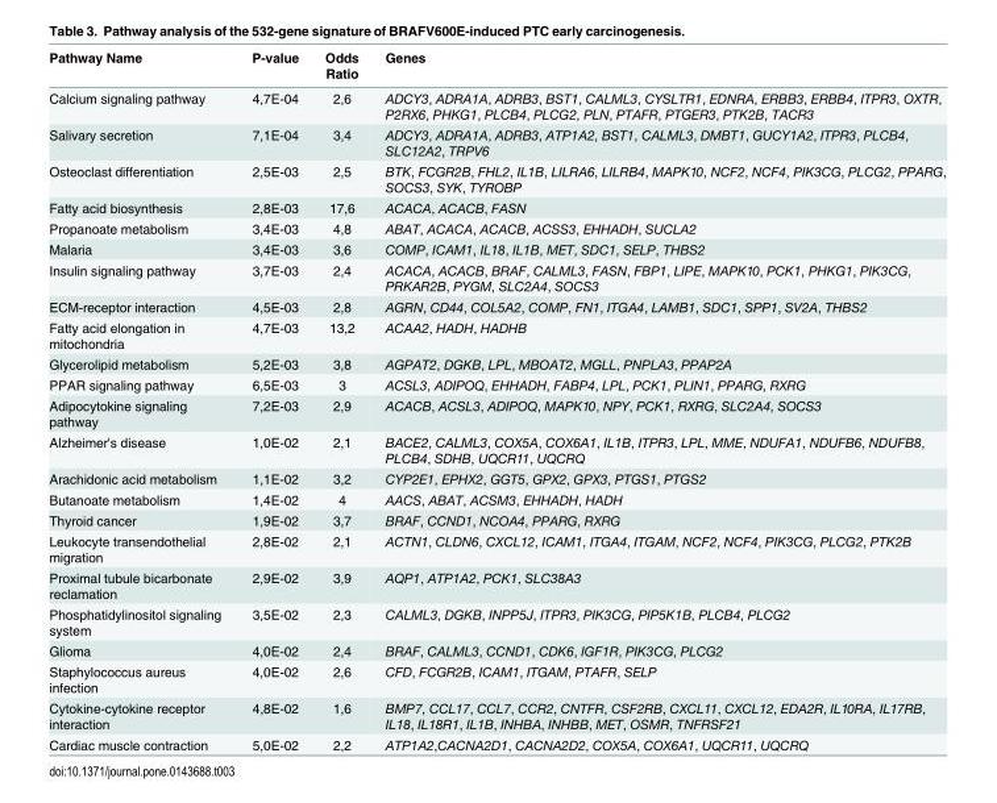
<table><thead><tr><td>Pathway Name</td><td>P-value</td><td>Odds Ratio</td><td>Genes</td></tr></thead><tbody><tr><td>Calcium signaling pathway</td><td>4,7E-04</td><td>2,6</td><td>ADCY3, ADRA1A, ADRB3, BST1, CALML3, CYSLTR1, EDNRA, ERBB3, ERBB4, ITPR3, OXTR, P2RX6, PHKG1, PLCB4, PLCG2, PLN, PTAFR, PTGER3, PTK2B, TACR3</td></tr><tr><td>Salivary secretion</td><td>7,1E-04</td><td>3,4</td><td>ADCY3, ADRA1A, ADRB3, ATP1A2, BST1, CALML3, DMBT1, GUCY1A2, ITPR3, PLCB4, SLC12A2, TRPV6</td></tr><tr><td>Osteoclast differentiation</td><td>2,5E-03</td><td>2,5</td><td>BTK, FCGR2B, FHL2, IL1B, LILRA6, LILRB4, MAPK10, NCF2, NCF4, PIK3CG, PLCG2, PPARG, SOCS3, SYK, TYROBP</td></tr><tr><td>Fatty acid biosynthesis</td><td>2,8E-03</td><td>17,6</td><td>ACACA, ACACB, FASN</td></tr><tr><td>Propanoate metabolism</td><td>3,4E-03</td><td>4,8</td><td>ABAT, ACACA, ACACB, ACSS3, EHHADH, SUCLA2</td></tr><tr><td>Malaria</td><td>3,4E-03</td><td>3,6</td><td>COMP, ICAM1, IL18, IL1B, MET, SDC1, SELP, THBS2</td></tr><tr><td>Insulin signaling pathway</td><td>3,7E-03</td><td>2,4</td><td>ACACA, ACACB, BRAF, CALML3, FASN, FBP1, LIPE, MAPK10, PCK1, PHKG1, PIK3CG, PRKAR2B, PYGM, SLC2A4, SOCS3</td></tr><tr><td>ECM-receptor interaction</td><td>4,5E-03</td><td>2,8</td><td>AGRN, CD44, COL5A2, COMP, FN1, ITGA4, LAMB1, SDC1, SPP1, SV2A, THBS2</td></tr><tr><td>Fatty acid elongation in mitochondria</td><td>4,7E-03</td><td>13,2</td><td>ACAA2, HADH, HADHB</td></tr><tr><td>Glycerolipid metabolism</td><td>5,2E-03</td><td>3,8</td><td>AGPAT2, DGKB, LPL, MBOAT2, MGLL, PNPLA3, PPAP2A</td></tr><tr><td>PPAR signaling pathway</td><td>6,5E-03</td><td>3</td><td>ACSL3, ADIPOQ, EHHADH, FABP4, LPL, PCK1, PLIN1, PPARG, RXRG</td></tr><tr><td>Adipocytokine signaling pathway</td><td>7,2E-03</td><td>2,9</td><td>ACACB, ACSL3, ADIPOQ, MAPK10, NPY, PCK1, RXRG, SLC2A4, SOCS3</td></tr><tr><td>Alzheimer&#x27;s disease</td><td>1,0E-02</td><td>2,1</td><td>BACE2, CALML3, COX5A, COX6A1, IL1B, ITPR3, LPL, MME, NDUFA1, NDUFB6, NDUFB8, PLCB4, SDHB, UQCR11, UQCRQ</td></tr><tr><td>Arachidonic acid metabolism</td><td>1,1E-02</td><td>3,2</td><td>CYP2E1, EPHX2, GGT5, GPX2, GPX3, PTGS1, PTGS2</td></tr><tr><td>Butanoate metabolism</td><td>1,4E-02</td><td>4</td><td>AACS, ABAT, ACSM3, EHHADH, HADH</td></tr><tr><td>Thyroid cancer</td><td>1,9E-02</td><td>3,7</td><td>BRAF, CCND1, NCOA4, PPARG, RXRG</td></tr><tr><td>Leukocyte transendothelial migration</td><td>2,8E-02</td><td>2,1</td><td>ACTN1, CLDN6, CXCL12, ICAM1, ITGA4, ITGAM, NCF2, NCF4, PIK3CG, PLCG2, PTK2B</td></tr><tr><td>Proximal tubule bicarbonate reclamation</td><td>2,9E-02</td><td>3,9</td><td>AQP1, ATP1A2, PCK1, SLC38A3</td></tr><tr><td>Phosphatidylinositol signaling system</td><td>3,5E-02</td><td>2,3</td><td>CALML3, DGKB, INPP5J, ITPR3, PIK3CG, PIP5K1B, PLCB4, PLCG2</td></tr><tr><td>Glioma</td><td>4,0E-02</td><td>2,4</td><td>BRAF, CALML3, CCND1, CDK6, IGF1R, PIK3CG, PLCG2</td></tr><tr><td>Staphylococcus aureus infection</td><td>4,0E-02</td><td>2,6</td><td>CFD, FCGR2B, ICAM1, ITGAM, PTAFR, SELP</td></tr><tr><td>Cytokine-cytokine receptor interaction</td><td>4,8E-02</td><td>1,6</td><td>BMP7, CCL17, CCL7, CCR2, CNTFR, CSF2RB, CXCL11, CXCL12, EDA2R, IL10RA, IL17RB, IL18, IL18R1, IL1B, INHBA, INHBB, MET, OSMR, TNFRSF21</td></tr><tr><td>Cardiac muscle contraction</td><td>5,0E-02</td><td>2,2</td><td>ATP1A2,CACNA2D1, CACNA2D2, COX5A, COX6A1, UQCR11, UQCRQ</td></tr></tbody></table>